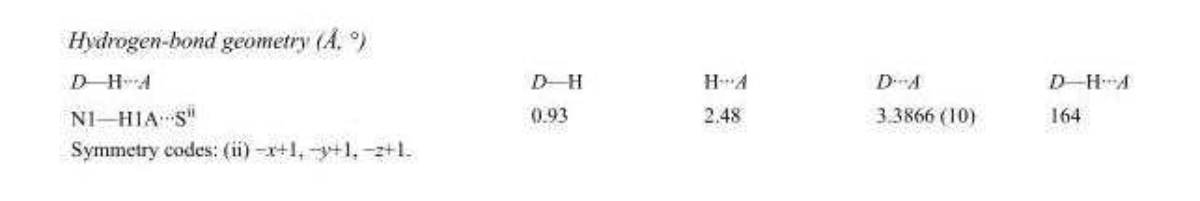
<table><tbody><tr><td>D—H···A</td><td>D—H</td><td>H···A</td><td>D···A</td><td>D—H···A</td></tr><tr><td>N1—H1A···S<sup>ii</sup></td><td>0.93</td><td>2.48</td><td>3.3866 (10)</td><td>164</td></tr></tbody></table>